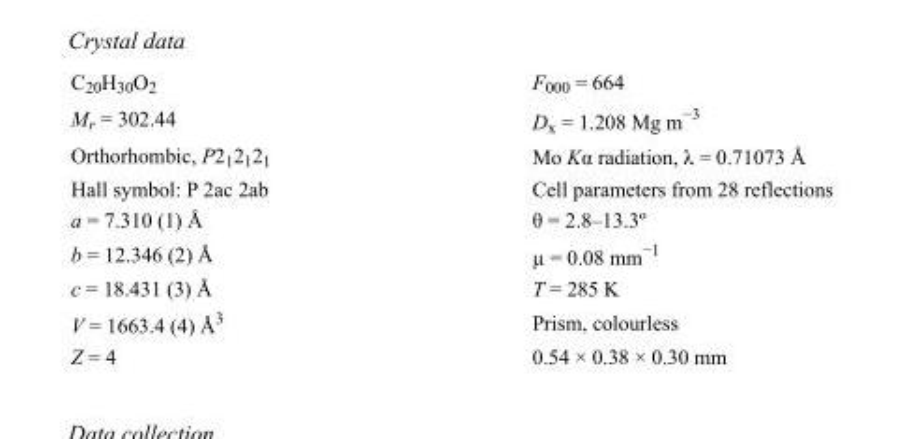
<table><tbody><tr><td>C<sub>20</sub>H<sub>30</sub>O<sub>2</sub></td><td>F000 = 664</td></tr><tr><td>M<sub>r</sub> = 302.44</td><td>D<sub>x</sub> = 1.208 Mg m<sup>−3</sup></td></tr><tr><td>Orthorhombic, P2<sub>1</sub>2<sub>1</sub>2<sub>1</sub></td><td>Mo Kα radiation, λ = 0.71073 Å</td></tr><tr><td>Hall symbol: P 2ac 2ab</td><td>Cell parameters from 28 reflections</td></tr><tr><td>a = 7.310 (1) Å</td><td>θ = 2.8–13.3º</td></tr><tr><td>b = 12.346 (2) Å</td><td>µ = 0.08 mm<sup>−1</sup></td></tr><tr><td>c = 18.431 (3) Å</td><td>T = 285 K</td></tr><tr><td>V = 1663.4 (4) Å<sup>3</sup></td><td>Prism, colourless</td></tr><tr><td>Z = 4</td><td>0.54 × 0.38 × 0.30 mm</td></tr></tbody></table>